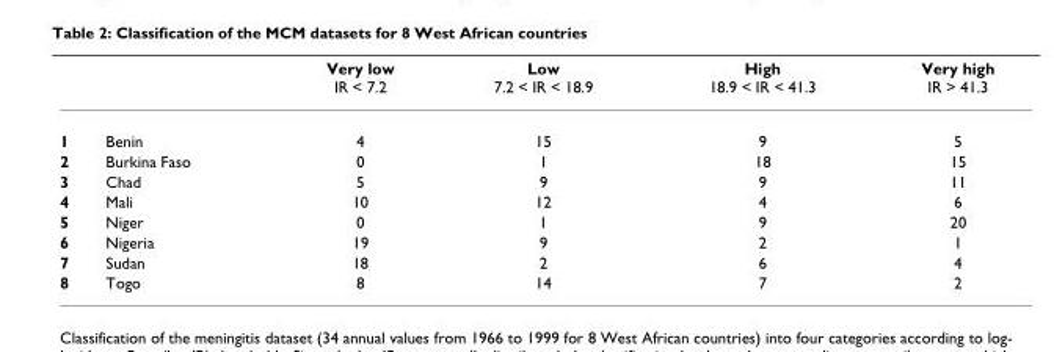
<table><thead><tr><td></td><td></td><td>Very low IR &lt; 7.2</td><td>Low 7.2 &lt; IR &lt; 18.9</td><td>High 18.9 &lt; IR &lt; 41.3</td><td>Very high IR &gt; 41.3</td></tr></thead><tbody><tr><td>1</td><td>Benin</td><td>4</td><td>15</td><td>9</td><td>5</td></tr><tr><td>2</td><td>Burkina Faso</td><td>0</td><td>1</td><td>18</td><td>15</td></tr><tr><td>3</td><td>Chad</td><td>5</td><td>9</td><td>9</td><td>11</td></tr><tr><td>4</td><td>Mali</td><td>10</td><td>12</td><td>4</td><td>6</td></tr><tr><td>5</td><td>Niger</td><td>0</td><td>1</td><td>9</td><td>20</td></tr><tr><td>6</td><td>Nigeria</td><td>19</td><td>9</td><td>2</td><td>1</td></tr><tr><td>7</td><td>Sudan</td><td>18</td><td>2</td><td>6</td><td>4</td></tr><tr><td>8</td><td>Togo</td><td>8</td><td>14</td><td>7</td><td>2</td></tr></tbody></table>